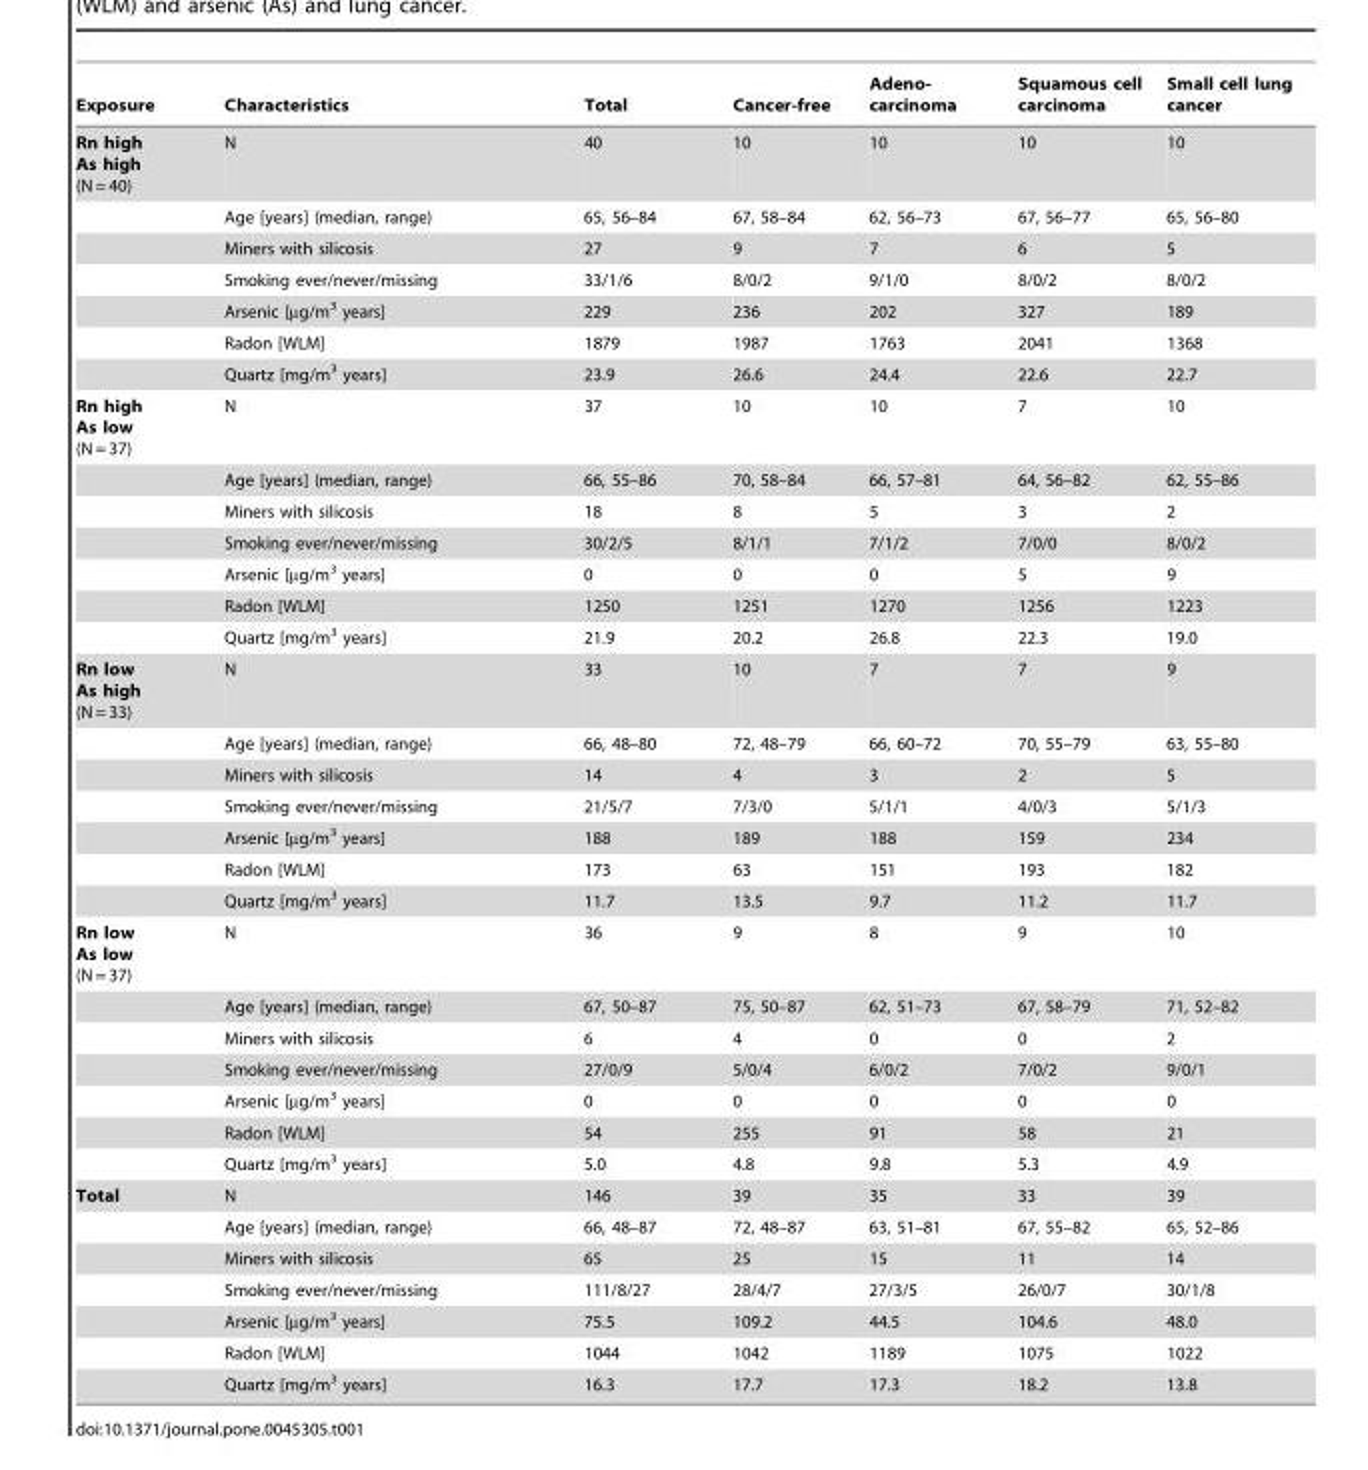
<table><thead><tr><td>Exposure</td><td>Characteristics</td><td>Total</td><td>Cancer-free</td><td>Adeno- carcinoma</td><td>Squamous cell carcinoma</td><td>Small cell lung cancer</td></tr></thead><tbody><tr><td rowspan="7">Rn high As high (N = 40)</td><td>N</td><td>40</td><td>10</td><td>10</td><td>10</td><td>10</td></tr><tr><td>Age [years] (median, range)</td><td>65, 56–84</td><td>67, 58–84</td><td>62, 56–73</td><td>67, 56–77</td><td>65, 56–80</td></tr><tr><td>Miners with silicosis</td><td>27</td><td>9</td><td>7</td><td>6</td><td>5</td></tr><tr><td>Smoking ever/never/missing</td><td>33/1/6</td><td>8/0/2</td><td>9/1/0</td><td>8/0/2</td><td>8/0/2</td></tr><tr><td>Arsenic [µg/m<sup>3</sup> years]</td><td>229</td><td>236</td><td>202</td><td>327</td><td>189</td></tr><tr><td>Radon [WLM]</td><td>1879</td><td>1987</td><td>1763</td><td>2041</td><td>1368</td></tr><tr><td>Quartz [mg/m<sup>3</sup> years]</td><td>23.9</td><td>26.6</td><td>24.4</td><td>22.6</td><td>22.7</td></tr><tr><td rowspan="7">Rn high As low (N = 37)</td><td>N</td><td>37</td><td>10</td><td>10</td><td>7</td><td>10</td></tr><tr><td>Age [years] (median, range)</td><td>66, 55–86</td><td>70, 58–84</td><td>66, 57–81</td><td>64, 56–82</td><td>62, 55–86</td></tr><tr><td>Miners with silicosis</td><td>18</td><td>8</td><td>5</td><td>3</td><td>2</td></tr><tr><td>Smoking ever/never/missing</td><td>30/2/5</td><td>8/1/1</td><td>7/1/2</td><td>7/0/0</td><td>8/0/2</td></tr><tr><td>Arsenic [µg/m<sup>3</sup> years]</td><td>0</td><td>0</td><td>0</td><td>5</td><td>9</td></tr><tr><td>Radon [WLM]</td><td>1250</td><td>1251</td><td>1270</td><td>1256</td><td>1223</td></tr><tr><td>Quartz [mg/m<sup>3</sup> years]</td><td>21.9</td><td>20.2</td><td>26.8</td><td>22.3</td><td>19.0</td></tr><tr><td rowspan="7">Rn low As high (N = 33)</td><td>N</td><td>33</td><td>10</td><td>7</td><td>7</td><td>9</td></tr><tr><td>Age [years] (median, range)</td><td>66, 48–80</td><td>72, 48–79</td><td>66, 60–72</td><td>70, 55–79</td><td>63, 55–80</td></tr><tr><td>Miners with silicosis</td><td>14</td><td>4</td><td>3</td><td>2</td><td>5</td></tr><tr><td>Smoking ever/never/missing</td><td>21/5/7</td><td>7/3/0</td><td>5/1/1</td><td>4/0/3</td><td>5/1/3</td></tr><tr><td>Arsenic [µg/m<sup>3</sup> years]</td><td>188</td><td>189</td><td>188</td><td>159</td><td>234</td></tr><tr><td>Radon [WLM]</td><td>173</td><td>63</td><td>151</td><td>193</td><td>182</td></tr><tr><td>Quartz [mg/m<sup>3</sup> years]</td><td>11.7</td><td>13.5</td><td>9.7</td><td>11.2</td><td>11.7</td></tr><tr><td rowspan="7">Rn low As low (N = 37)</td><td>N</td><td>36</td><td>9</td><td>8</td><td>9</td><td>10</td></tr><tr><td>Age [years] (median, range)</td><td>67, 50–87</td><td>75, 50–87</td><td>62, 51–73</td><td>67, 58–79</td><td>71, 52–82</td></tr><tr><td>Miners with silicosis</td><td>6</td><td>4</td><td>0</td><td>0</td><td>2</td></tr><tr><td>Smoking ever/never/missing</td><td>27/0/9</td><td>5/0/4</td><td>6/0/2</td><td>7/0/2</td><td>9/0/1</td></tr><tr><td>Arsenic [µg/m<sup>3</sup> years]</td><td>0</td><td>0</td><td>0</td><td>0</td><td>0</td></tr><tr><td>Radon [WLM]</td><td>54</td><td>255</td><td>91</td><td>58</td><td>21</td></tr><tr><td>Quartz [mg/m<sup>3</sup> years]</td><td>5.0</td><td>4.8</td><td>9.8</td><td>5.3</td><td>4.9</td></tr><tr><td rowspan="7">Total</td><td>N</td><td>146</td><td>39</td><td>35</td><td>33</td><td>39</td></tr><tr><td>Age [years] (median, range)</td><td>66, 48–87</td><td>72, 48–87</td><td>63, 51–81</td><td>67, 55–82</td><td>65, 52–86</td></tr><tr><td>Miners with silicosis</td><td>65</td><td>25</td><td>15</td><td>11</td><td>14</td></tr><tr><td>Smoking ever/never/missing</td><td>111/8/27</td><td>28/4/7</td><td>27/3/5</td><td>26/0/7</td><td>30/1/8</td></tr><tr><td>Arsenic [µg/m<sup>3</sup> years]</td><td>75.5</td><td>109.2</td><td>44.5</td><td>104.6</td><td>48.0</td></tr><tr><td>Radon [WLM]</td><td>1044</td><td>1042</td><td>1189</td><td>1075</td><td>1022</td></tr><tr><td>Quartz [mg/m<sup>3</sup> years]</td><td>16.3</td><td>17.7</td><td>17.3</td><td>18.2</td><td>13.8</td></tr></tbody></table>